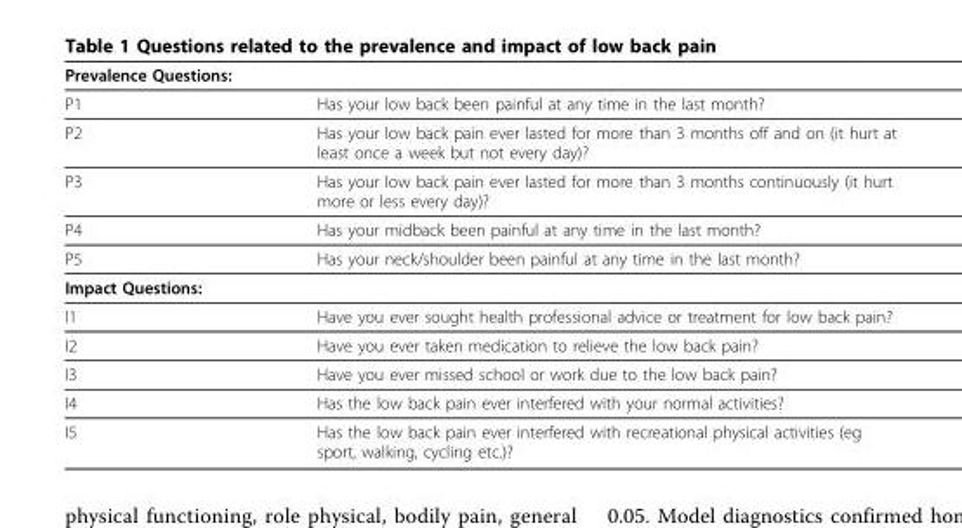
<table><thead><tr><td colspan="2">Prevalence Questions:</td></tr><tr><td>P1</td><td>Has your low back been painful at any time in the last month?</td></tr></thead><tbody><tr><td>P2</td><td>Has your low back pain ever lasted for more than 3 months off and on (it hurt at least once a week but not every day)?</td></tr><tr><td>P3</td><td>Has your low back pain ever lasted for more than 3 months continuously (it hurt more or less every day)?</td></tr><tr><td>P4</td><td>Has your midback been painful at any time in the last month?</td></tr><tr><td>P5</td><td>Has your neck/shoulder been painful at any time in the last month?</td></tr><tr><td colspan="2">Impact Questions:</td></tr><tr><td>I1</td><td>Have you ever sought health professional advice or treatment for low back pain?</td></tr><tr><td>I2</td><td>Have you ever taken medication to relieve the low back pain?</td></tr><tr><td>I3</td><td>Have you ever missed school or work due to the low back pain?</td></tr><tr><td>I4</td><td>Has the low back pain ever interfered with your normal activities?</td></tr><tr><td>I5</td><td>Has the low back pain ever interfered with recreational physical activities (eg sport, walking, cycling etc.)?</td></tr></tbody></table>